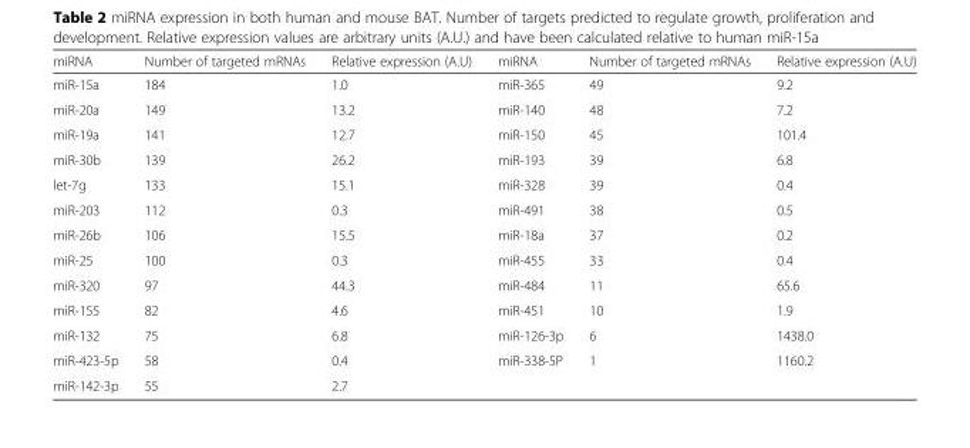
<table><thead><tr><td>miRNA</td><td>Number of targeted mRNAs</td><td>Relative expression (A.U)</td><td>miRNA</td><td>Number of targeted mRNAs</td><td>Relative expression (A.U)</td></tr></thead><tbody><tr><td>miR-15a</td><td>184</td><td>1.0</td><td>miR-365</td><td>49</td><td>9.2</td></tr><tr><td>miR-20a</td><td>149</td><td>13.2</td><td>miR-140</td><td>48</td><td>7.2</td></tr><tr><td>miR-19a</td><td>141</td><td>12.7</td><td>miR-150</td><td>45</td><td>101.4</td></tr><tr><td>miR-30b</td><td>139</td><td>26.2</td><td>miR-193</td><td>39</td><td>6.8</td></tr><tr><td>let-7g</td><td>133</td><td>15.1</td><td>miR-328</td><td>39</td><td>0.4</td></tr><tr><td>miR-203</td><td>112</td><td>0.3</td><td>miR-491</td><td>38</td><td>0.5</td></tr><tr><td>miR-26b</td><td>106</td><td>15.5</td><td>miR-18a</td><td>37</td><td>0.2</td></tr><tr><td>miR-25</td><td>100</td><td>0.3</td><td>miR-455</td><td>33</td><td>0.4</td></tr><tr><td>miR-320</td><td>97</td><td>44.3</td><td>miR-484</td><td>11</td><td>65.6</td></tr><tr><td>miR-155</td><td>82</td><td>4.6</td><td>miR-451</td><td>10</td><td>1.9</td></tr><tr><td>miR-132</td><td>75</td><td>6.8</td><td>miR-126-3p</td><td>6</td><td>1438.0</td></tr><tr><td>miR-423-5p</td><td>58</td><td>0.4</td><td>miR-338-5P</td><td>1</td><td>1160.2</td></tr><tr><td>miR-142-3p</td><td>55</td><td>2.7</td><td></td><td></td><td></td></tr></tbody></table>